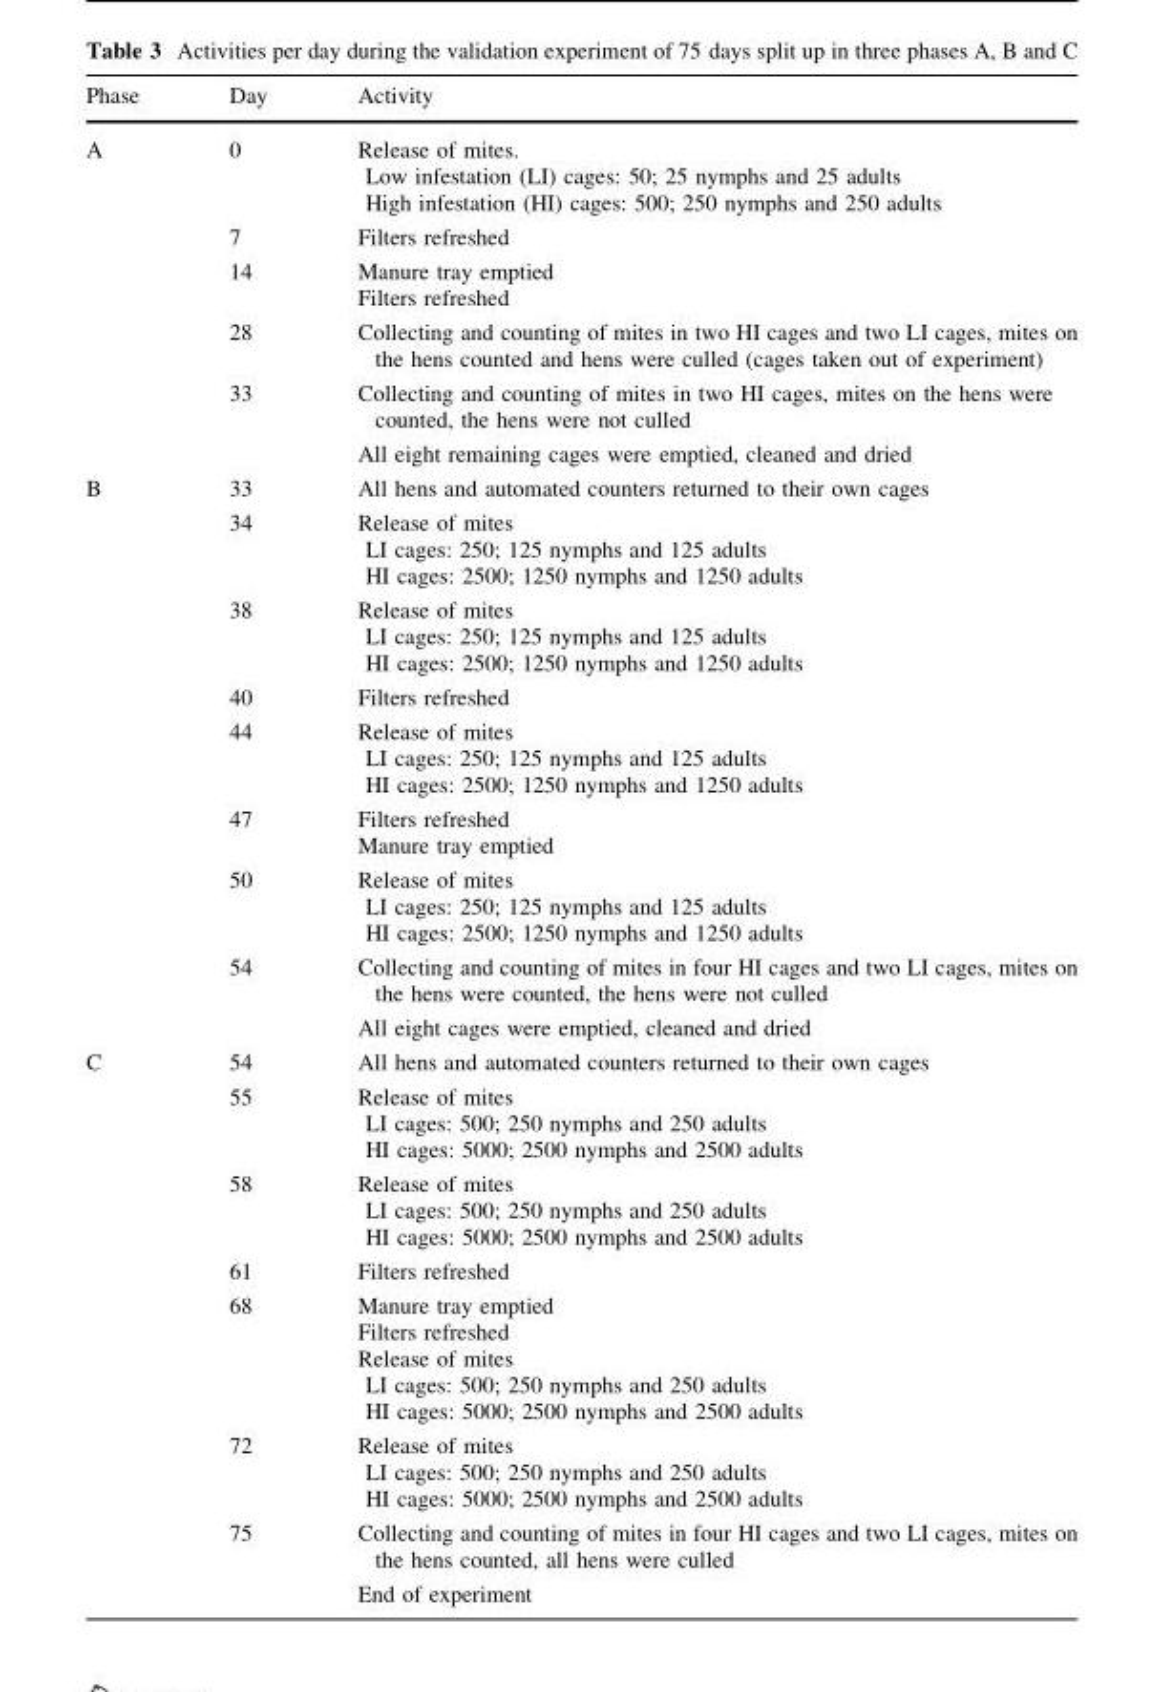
<table><thead><tr><td>Phase</td><td>Day</td><td>Activity</td></tr></thead><tbody><tr><td rowspan="6">A</td><td>0</td><td>Release of mites. Low infestation (LI) cages: 50; 25 nymphs and 25 adults High infestation (HI) cages: 500; 250 nymphs and 250 adults</td></tr><tr><td>7</td><td>Filters refreshed</td></tr><tr><td>14</td><td>Manure tray emptied Filters refreshed</td></tr><tr><td>28</td><td>Collecting and counting of mites in two HI cages and two LI cages, mites on the hens counted and hens were culled (cages taken out of experiment)</td></tr><tr><td rowspan="2">33</td><td>Collecting and counting of mites in two HI cages, mites on the hens were counted, the hens were not culled</td></tr><tr><td>All eight remaining cages were emptied, cleaned and dried</td></tr><tr><td rowspan="9">B</td><td>33</td><td>All hens and automated counters returned to their own cages</td></tr><tr><td>34</td><td>Release of mites LI cages: 250; 125 nymphs and 125 adults HI cages: 2500; 1250 nymphs and 1250 adults</td></tr><tr><td>38</td><td>Release of mites LI cages: 250; 125 nymphs and 125 adults HI cages: 2500; 1250 nymphs and 1250 adults</td></tr><tr><td>40</td><td>Filters refreshed</td></tr><tr><td>44</td><td>Release of mites LI cages: 250; 125 nymphs and 125 adults HI cages: 2500; 1250 nymphs and 1250 adults</td></tr><tr><td>47</td><td>Filters refreshed Manure tray emptied</td></tr><tr><td>50</td><td>Release of mites LI cages: 250; 125 nymphs and 125 adults HI cages: 2500; 1250 nymphs and 1250 adults</td></tr><tr><td rowspan="2">54</td><td>Collecting and counting of mites in four HI cages and two LI cages, mites on the hens were counted, the hens were not culled</td></tr><tr><td>All eight cages were emptied, cleaned and dried</td></tr><tr><td rowspan="8">C</td><td>54</td><td>All hens and automated counters returned to their own cages</td></tr><tr><td>55</td><td>Release of mites LI cages: 500; 250 nymphs and 250 adults HI cages: 5000; 2500 nymphs and 2500 adults</td></tr><tr><td>58</td><td>Release of mites LI cages: 500; 250 nymphs and 250 adults HI cages: 5000; 2500 nymphs and 2500 adults</td></tr><tr><td>61</td><td>Filters refreshed</td></tr><tr><td>68</td><td>Manure tray emptied Filters refreshed Release of mites LI cages: 500; 250 nymphs and 250 adults HI cages: 5000; 2500 nymphs and 2500 adults</td></tr><tr><td>72</td><td>Release of mites LI cages: 500; 250 nymphs and 250 adults HI cages: 5000; 2500 nymphs and 2500 adults</td></tr><tr><td rowspan="2">75</td><td>Collecting and counting of mites in four HI cages and two LI cages, mites on the hens counted, all hens were culled</td></tr><tr><td>End of experiment</td></tr></tbody></table>